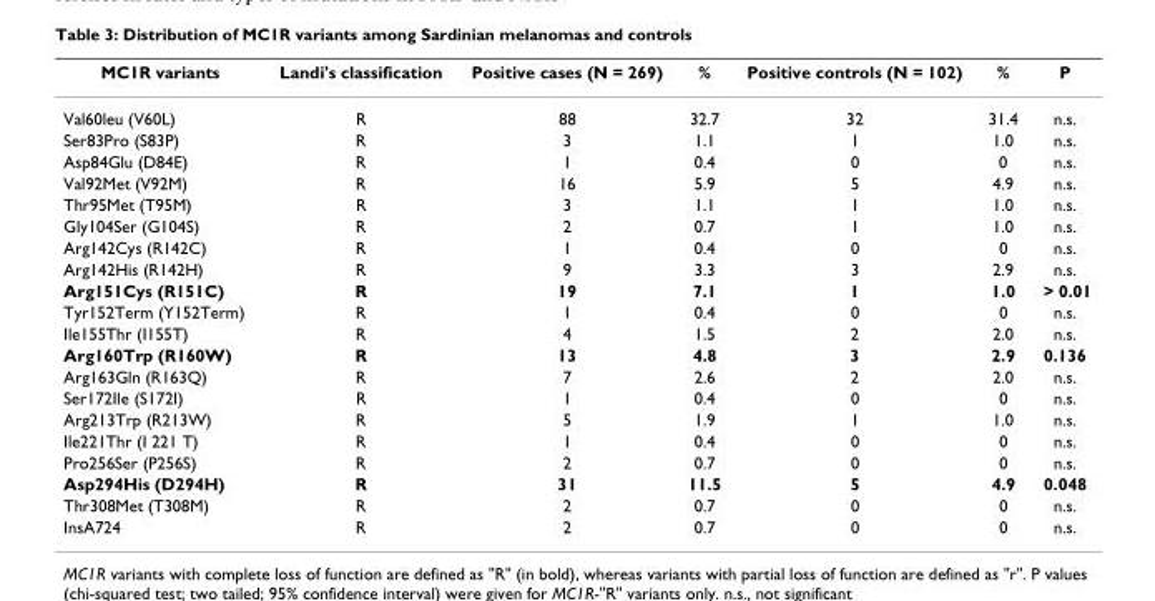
<table><thead><tr><td>MC1R variants</td><td>Landi&#x27;s classification</td><td>Positive cases (N = 269)</td><td>%</td><td>Positive controls (N = 102)</td><td>%</td><td>P</td></tr></thead><tbody><tr><td>Val60leu (V60L)</td><td>R</td><td>88</td><td>32.7</td><td>32</td><td>31.4</td><td>n.s.</td></tr><tr><td>Ser83Pro (S83P)</td><td>R</td><td>3</td><td>1.1</td><td>1</td><td>1.0</td><td>n.s.</td></tr><tr><td>Asp84Glu (D84E)</td><td>R</td><td>1</td><td>0.4</td><td>0</td><td>0</td><td>n.s.</td></tr><tr><td>Val92Met (V92M)</td><td>R</td><td>16</td><td>5.9</td><td>5</td><td>4.9</td><td>n.s.</td></tr><tr><td>Thr95Met (T95M)</td><td>R</td><td>3</td><td>1.1</td><td>1</td><td>1.0</td><td>n.s.</td></tr><tr><td>Gly104Ser (G104S)</td><td>R</td><td>2</td><td>0.7</td><td>1</td><td>1.0</td><td>n.s.</td></tr><tr><td>Arg142Cys (R142C)</td><td>R</td><td>1</td><td>0.4</td><td>0</td><td>0</td><td>n.s.</td></tr><tr><td>Arg142His (R142H)</td><td>R</td><td>9</td><td>3.3</td><td>3</td><td>2.9</td><td>n.s.</td></tr><tr><td>Arg151Cys (R151C)</td><td>R</td><td>19</td><td>7.1</td><td>1</td><td>1.0</td><td>&gt; 0.01</td></tr><tr><td>Tyr152Term (Y152Term)</td><td>R</td><td>1</td><td>0.4</td><td>0</td><td>0</td><td>n.s.</td></tr><tr><td>Ile155Thr (I155T)</td><td>R</td><td>4</td><td>1.5</td><td>2</td><td>2.0</td><td>n.s.</td></tr><tr><td>Arg160Trp (R160W)</td><td>R</td><td>13</td><td>4.8</td><td>3</td><td>2.9</td><td>0.136</td></tr><tr><td>Arg163Gln (R163Q)</td><td>R</td><td>7</td><td>2.6</td><td>2</td><td>2.0</td><td>n.s.</td></tr><tr><td>Ser172Ile (S172I)</td><td>R</td><td>1</td><td>0.4</td><td>0</td><td>0</td><td>n.s.</td></tr><tr><td>Arg213Trp (R213W)</td><td>R</td><td>5</td><td>1.9</td><td>1</td><td>1.0</td><td>n.s.</td></tr><tr><td>Ile221Thr (I 221 T)</td><td>R</td><td>1</td><td>0.4</td><td>0</td><td>0</td><td>n.s.</td></tr><tr><td>Pro256Ser (P256S)</td><td>R</td><td>2</td><td>0.7</td><td>0</td><td>0</td><td>n.s.</td></tr><tr><td>Asp294His (D294H)</td><td>R</td><td>31</td><td>11.5</td><td>5</td><td>4.9</td><td>0.048</td></tr><tr><td>Thr308Met (T308M)</td><td>R</td><td>2</td><td>0.7</td><td>0</td><td>0</td><td>n.s.</td></tr><tr><td>InsA724</td><td>R</td><td>2</td><td>0.7</td><td>0</td><td>0</td><td>n.s.</td></tr></tbody></table>